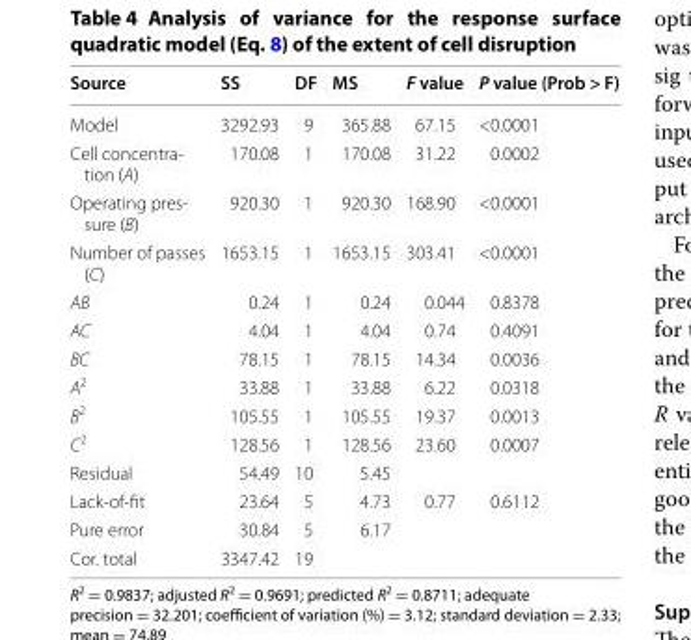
<table><thead><tr><td>Source</td><td>SS</td><td>DF</td><td>MS</td><td>F value</td><td>P value (Prob &gt; F)</td></tr></thead><tbody><tr><td>Model</td><td>3292.93</td><td>9</td><td>365.88</td><td>67.15</td><td>&lt;0.0001</td></tr><tr><td>Cell concentra- tion (A)</td><td>170.08</td><td>1</td><td>170.08</td><td>31.22</td><td>0.0002</td></tr><tr><td>Operating pres- sure (B)</td><td>920.30</td><td>1</td><td>920.30</td><td>168.90</td><td>&lt;0.0001</td></tr><tr><td>Number of passes (C)</td><td>1653.15</td><td>1</td><td>1653.15</td><td>303.41</td><td>&lt;0.0001</td></tr><tr><td>AB</td><td>0.24</td><td>1</td><td>0.24</td><td>0.044</td><td>0.8378</td></tr><tr><td>AC</td><td>4.04</td><td>1</td><td>4.04</td><td>0.74</td><td>0.4091</td></tr><tr><td>BC</td><td>78.15</td><td>1</td><td>78.15</td><td>14.34</td><td>0.0036</td></tr><tr><td>A<sup>2</sup></td><td>33.88</td><td>1</td><td>33.88</td><td>6.22</td><td>0.0318</td></tr><tr><td>B<sup>2</sup></td><td>105.55</td><td>1</td><td>105.55</td><td>19.37</td><td>0.0013</td></tr><tr><td>C<sup>2</sup></td><td>128.56</td><td>1</td><td>128.56</td><td>23.60</td><td>0.0007</td></tr><tr><td>Residual</td><td>54.49</td><td>10</td><td>5.45</td><td></td><td></td></tr><tr><td>Lack-of-fit</td><td>23.64</td><td>5</td><td>4.73</td><td>0.77</td><td>0.6112</td></tr><tr><td>Pure error</td><td>30.84</td><td>5</td><td>6.17</td><td></td><td></td></tr><tr><td>Cor. total</td><td>3347.42</td><td>19</td><td></td><td></td><td></td></tr></tbody></table>